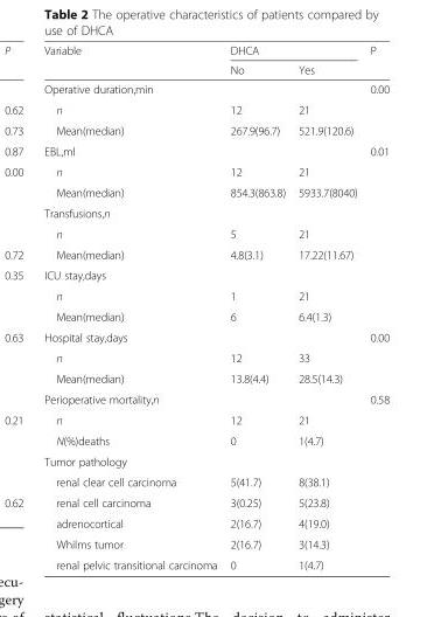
<table><thead><tr><td rowspan="2">Variable</td><td colspan="2">DHCA</td><td rowspan="2">P</td></tr><tr><td>No</td><td>Yes</td></tr></thead><tbody><tr><td>Operative duration,min</td><td></td><td></td><td>0.00</td></tr><tr><td>n</td><td>12</td><td>21</td><td></td></tr><tr><td>Mean(median)</td><td>267.9(96.7)</td><td>521.9(120.6)</td><td></td></tr><tr><td>EBL,ml</td><td></td><td></td><td>0.01</td></tr><tr><td>n</td><td>12</td><td>21</td><td></td></tr><tr><td>Mean(median)</td><td>854.3(863.8)</td><td>5933.7(8040)</td><td></td></tr><tr><td colspan="4">Transfusions,n</td></tr><tr><td>n</td><td>5</td><td>21</td><td></td></tr><tr><td>Mean(median)</td><td>4.8(3.1)</td><td>17.22(11.67)</td><td></td></tr><tr><td colspan="4">ICU stay,days</td></tr><tr><td>n</td><td>1</td><td>21</td><td></td></tr><tr><td>Mean(median)</td><td>6</td><td>6.4(1.3)</td><td></td></tr><tr><td>Hospital stay,days</td><td></td><td></td><td>0.00</td></tr><tr><td>n</td><td>12</td><td>33</td><td></td></tr><tr><td>Mean(median)</td><td>13.8(4.4)</td><td>28.5(14.3)</td><td></td></tr><tr><td>Perioperative mortality,n</td><td></td><td></td><td>0.58</td></tr><tr><td>n</td><td>12</td><td>21</td><td></td></tr><tr><td>N(%)deaths</td><td>0</td><td>1(4.7)</td><td></td></tr><tr><td colspan="4">Tumor pathology</td></tr><tr><td>renal clear cell carcinoma</td><td>5(41.7)</td><td>8(38.1)</td><td></td></tr><tr><td>renal cell carcinoma</td><td>3(0.25)</td><td>5(23.8)</td><td></td></tr><tr><td>adrenocortical</td><td>2(16.7)</td><td>4(19.0)</td><td></td></tr><tr><td>Whilms tumor</td><td>2(16.7)</td><td>3(14.3)</td><td></td></tr><tr><td>renal pelvic transitional carcinoma</td><td>0</td><td>1(4.7)</td><td></td></tr></tbody></table>